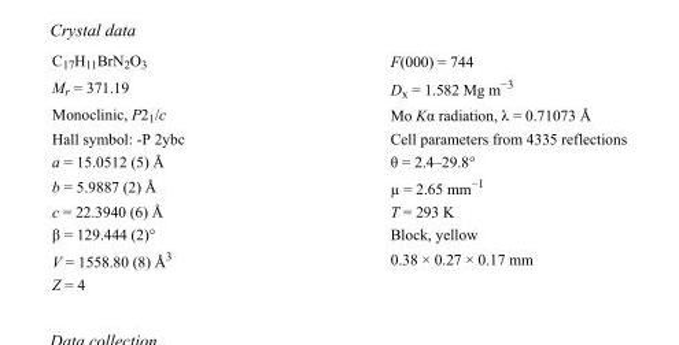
<table><tbody><tr><td>C<sub>17</sub>H<sub>11</sub>BrN<sub>2</sub>O<sub>3</sub></td><td>F(000) = 744</td></tr><tr><td>M<sub>r</sub> = 371.19</td><td>D<sub>x</sub> = 1.582 Mg m<sup>−3</sup></td></tr><tr><td>Monoclinic, P2<sub>1</sub>/c</td><td>Mo Kα radiation, λ = 0.71073 Å</td></tr><tr><td>Hall symbol: -P 2ybc</td><td>Cell parameters from 4335 reflections</td></tr><tr><td>a = 15.0512 (5) Å</td><td>θ = 2.4–29.8°</td></tr><tr><td>b = 5.9887 (2) Å</td><td>µ = 2.65 mm<sup>−1</sup></td></tr><tr><td>c = 22.3940 (6) Å</td><td>T = 293 K</td></tr><tr><td>β = 129.444 (2)°</td><td>Block, yellow</td></tr><tr><td>V = 1558.80 (8) Å<sup>3</sup></td><td>0.38 × 0.27 × 0.17 mm</td></tr><tr><td>Z = 4</td><td></td></tr></tbody></table>